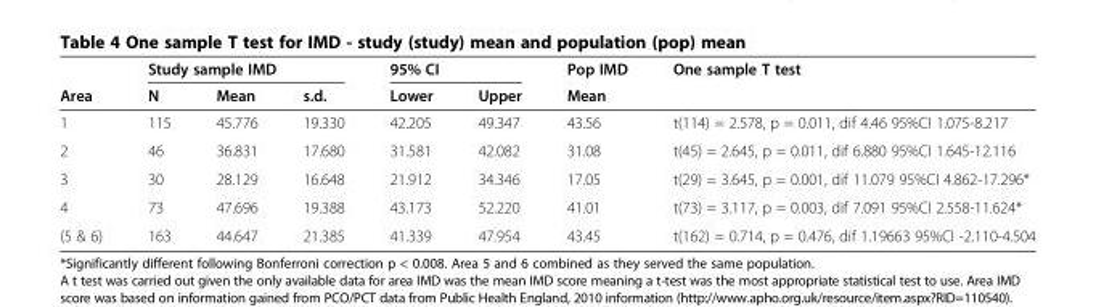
<table><thead><tr><td rowspan="2">Area</td><td colspan="3">Study sample IMD</td><td colspan="2">95% CI</td><td rowspan="2">Pop IMD Mean</td><td rowspan="2">One sample T test</td></tr><tr><td>N</td><td>Mean</td><td>s.d.</td><td>Lower</td><td>Upper</td></tr></thead><tbody><tr><td>1</td><td>115</td><td>45.776</td><td>19.330</td><td>42.205</td><td>49.347</td><td>43.56</td><td>t(114) = 2.578, p = 0.011, dif 4.46 95%CI 1.075-8.217</td></tr><tr><td>2</td><td>46</td><td>36.831</td><td>17.680</td><td>31.581</td><td>42.082</td><td>31.08</td><td>t(45) = 2.645, p = 0.011, dif 6.880 95%CI 1.645-12.116</td></tr><tr><td>3</td><td>30</td><td>28.129</td><td>16.648</td><td>21.912</td><td>34.346</td><td>17.05</td><td>t(29) = 3.645, p = 0.001, dif 11.079 95%CI 4.862-17.296*</td></tr><tr><td>4</td><td>73</td><td>47.696</td><td>19.388</td><td>43.173</td><td>52.220</td><td>41.01</td><td>t(73) = 3.117, p = 0.003, dif 7.091 95%CI 2.558-11.624*</td></tr><tr><td>(5 &amp; 6)</td><td>163</td><td>44.647</td><td>21.385</td><td>41.339</td><td>47.954</td><td>43.45</td><td>t(162) = 0.714, p = 0.476, dif 1.19663 95%CI -2.110-4.504</td></tr></tbody></table>